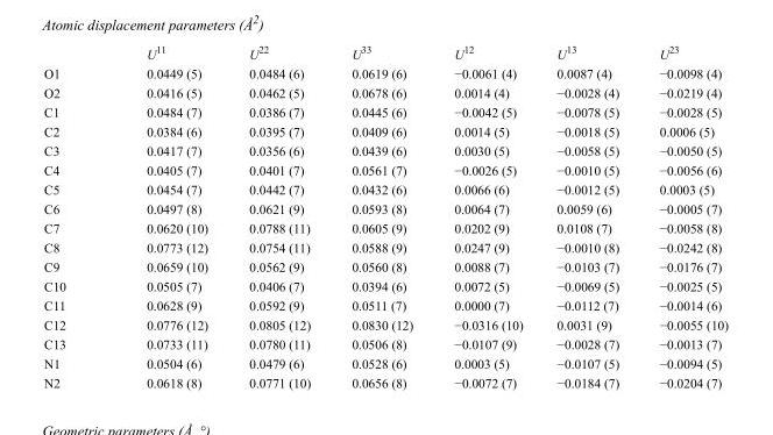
<table><thead><tr><td></td><td>U<sup>11</sup></td><td>U<sup>22</sup></td><td>U<sup>33</sup></td><td>U<sup>12</sup></td><td>U<sup>13</sup></td><td>U<sup>23</sup></td></tr></thead><tbody><tr><td>O1</td><td>0.0449 (5)</td><td>0.0484 (6)</td><td>0.0619 (6)</td><td>−0.0061 (4)</td><td>0.0087 (4)</td><td>−0.0098 (4)</td></tr><tr><td>O2</td><td>0.0416 (5)</td><td>0.0462 (5)</td><td>0.0678 (6)</td><td>0.0014 (4)</td><td>−0.0028 (4)</td><td>−0.0219 (4)</td></tr><tr><td>C1</td><td>0.0484 (7)</td><td>0.0386 (7)</td><td>0.0445 (6)</td><td>−0.0042 (5)</td><td>−0.0078 (5)</td><td>−0.0028 (5)</td></tr><tr><td>C2</td><td>0.0384 (6)</td><td>0.0395 (7)</td><td>0.0409 (6)</td><td>0.0014 (5)</td><td>−0.0018 (5)</td><td>0.0006 (5)</td></tr><tr><td>C3</td><td>0.0417 (7)</td><td>0.0356 (6)</td><td>0.0439 (6)</td><td>0.0030 (5)</td><td>−0.0058 (5)</td><td>−0.0050 (5)</td></tr><tr><td>C4</td><td>0.0405 (7)</td><td>0.0401 (7)</td><td>0.0561 (7)</td><td>−0.0026 (5)</td><td>−0.0010 (5)</td><td>−0.0056 (6)</td></tr><tr><td>C5</td><td>0.0454 (7)</td><td>0.0442 (7)</td><td>0.0432 (6)</td><td>0.0066 (6)</td><td>−0.0012 (5)</td><td>0.0003 (5)</td></tr><tr><td>C6</td><td>0.0497 (8)</td><td>0.0621 (9)</td><td>0.0593 (8)</td><td>0.0064 (7)</td><td>0.0059 (6)</td><td>−0.0005 (7)</td></tr><tr><td>C7</td><td>0.0620 (10)</td><td>0.0788 (11)</td><td>0.0605 (9)</td><td>0.0202 (9)</td><td>0.0108 (7)</td><td>−0.0058 (8)</td></tr><tr><td>C8</td><td>0.0773 (12)</td><td>0.0754 (11)</td><td>0.0588 (9)</td><td>0.0247 (9)</td><td>−0.0010 (8)</td><td>−0.0242 (8)</td></tr><tr><td>C9</td><td>0.0659 (10)</td><td>0.0562 (9)</td><td>0.0560 (8)</td><td>0.0088 (7)</td><td>−0.0103 (7)</td><td>−0.0176 (7)</td></tr><tr><td>C10</td><td>0.0505 (7)</td><td>0.0406 (7)</td><td>0.0394 (6)</td><td>0.0072 (5)</td><td>−0.0069 (5)</td><td>−0.0025 (5)</td></tr><tr><td>C11</td><td>0.0628 (9)</td><td>0.0592 (9)</td><td>0.0511 (7)</td><td>0.0000 (7)</td><td>−0.0112 (7)</td><td>−0.0014 (6)</td></tr><tr><td>C12</td><td>0.0776 (12)</td><td>0.0805 (12)</td><td>0.0830 (12)</td><td>−0.0316 (10)</td><td>0.0031 (9)</td><td>−0.0055 (10)</td></tr><tr><td>C13</td><td>0.0733 (11)</td><td>0.0780 (11)</td><td>0.0506 (8)</td><td>−0.0107 (9)</td><td>−0.0028 (7)</td><td>−0.0013 (7)</td></tr><tr><td>N1</td><td>0.0504 (6)</td><td>0.0479 (6)</td><td>0.0528 (6)</td><td>0.0003 (5)</td><td>−0.0107 (5)</td><td>−0.0094 (5)</td></tr><tr><td>N2</td><td>0.0618 (8)</td><td>0.0771 (10)</td><td>0.0656 (8)</td><td>−0.0072 (7)</td><td>−0.0184 (7)</td><td>−0.0204 (7)</td></tr></tbody></table>